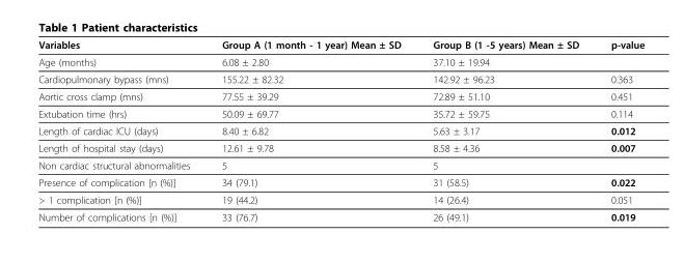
<table><thead><tr><td>Variables</td><td>Group A (1 month - 1 year) Mean ± SD</td><td>Group B (1 -5 years) Mean ± SD</td><td>p-value</td></tr></thead><tbody><tr><td>Age (months)</td><td>6.08 ± 2.80</td><td>37.10 ± 19.94</td><td></td></tr><tr><td>Cardiopulmonary bypass (mns)</td><td>155.22 ± 82.32</td><td>142.92 ± 96.23</td><td>0.363</td></tr><tr><td>Aortic cross clamp (mns)</td><td>77.55 ± 39.29</td><td>72.89 ± 51.10</td><td>0.451</td></tr><tr><td>Extubation time (hrs)</td><td>50.09 ± 69.77</td><td>35.72 ± 59.75</td><td>0.114</td></tr><tr><td>Length of cardiac ICU (days)</td><td>8.40 ± 6.82</td><td>5.63 ± 3.17</td><td>0.012</td></tr><tr><td>Length of hospital stay (days)</td><td>12.61 ± 9.78</td><td>8.58 ± 4.36</td><td>0.007</td></tr><tr><td>Non cardiac structural abnormalities</td><td>5</td><td>5</td><td></td></tr><tr><td>Presence of complication [n (%)]</td><td>34 (79.1)</td><td>31 (58.5)</td><td>0.022</td></tr><tr><td>&gt; 1 complication [n (%)]</td><td>19 (44.2)</td><td>14 (26.4)</td><td>0.051</td></tr><tr><td>Number of complications [n (%)]</td><td>33 (76.7)</td><td>26 (49.1)</td><td>0.019</td></tr></tbody></table>